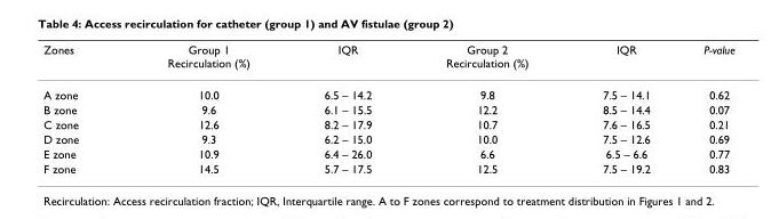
<table><thead><tr><td>Zones</td><td>Group 1 Recirculation (%)</td><td>IQR</td><td>Group 2 Recirculation (%)</td><td>IQR</td><td>P-value</td></tr></thead><tbody><tr><td>A zone</td><td>10.0</td><td>6.5 – 14.2</td><td>9.8</td><td>7.5 – 14.1</td><td>0.62</td></tr><tr><td>B zone</td><td>9.6</td><td>6.1 – 15.5</td><td>12.2</td><td>8.5 – 14.4</td><td>0.07</td></tr><tr><td>C zone</td><td>12.6</td><td>8.2 – 17.9</td><td>10.7</td><td>7.6 – 16.5</td><td>0.21</td></tr><tr><td>D zone</td><td>9.3</td><td>6.2 – 15.0</td><td>10.0</td><td>7.5 – 12.6</td><td>0.69</td></tr><tr><td>E zone</td><td>10.9</td><td>6.4 – 26.0</td><td>6.6</td><td>6.5 – 6.6</td><td>0.77</td></tr><tr><td>F zone</td><td>14.5</td><td>5.7 – 17.5</td><td>12.5</td><td>7.5 – 19.2</td><td>0.83</td></tr></tbody></table>